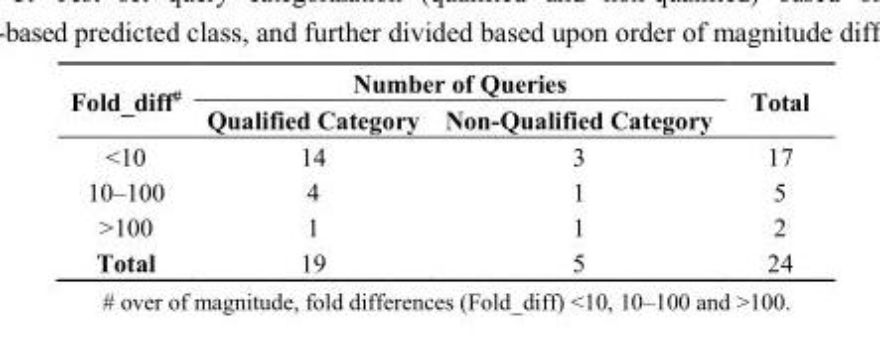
<table><thead><tr><td rowspan="2">Fold_diff<sup>#</sup></td><td colspan="2">Number of Queries</td><td rowspan="2">Total</td></tr><tr><td>Qualified Category</td><td>Non-Qualified Category</td></tr></thead><tbody><tr><td>&lt;10</td><td>14</td><td>3</td><td>17</td></tr><tr><td>10–100</td><td>4</td><td>1</td><td>5</td></tr><tr><td>&gt;100</td><td>1</td><td>1</td><td>2</td></tr><tr><td>Total</td><td>19</td><td>5</td><td>24</td></tr></tbody></table>